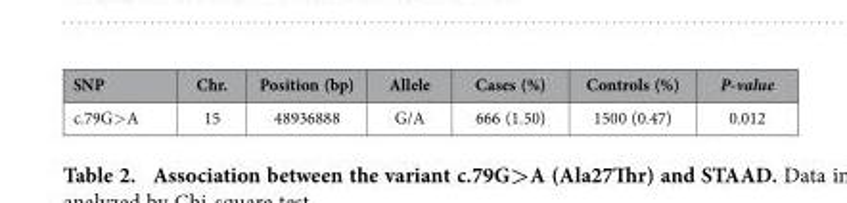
<table><thead><tr><td>SNP</td><td>Chr.</td><td>Position (bp)</td><td>Allele</td><td>Cases (%)</td><td>Controls (%)</td><td>P-value</td></tr></thead><tbody><tr><td>c.79G&gt; A</td><td>15</td><td>48936888</td><td>G/A</td><td>666 (1.50)</td><td>1500 (0.47)</td><td>0.012</td></tr></tbody></table>